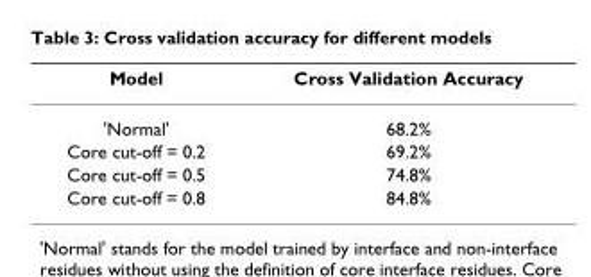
<table><thead><tr><td>Model</td><td>Cross Validation Accuracy</td></tr></thead><tbody><tr><td>&#x27;Normal&#x27;</td><td>68.2%</td></tr><tr><td>Core cut-off = 0.2</td><td>69.2%</td></tr><tr><td>Core cut-off = 0.5</td><td>74.8%</td></tr><tr><td>Core cut-off = 0.8</td><td>84.8%</td></tr></tbody></table>